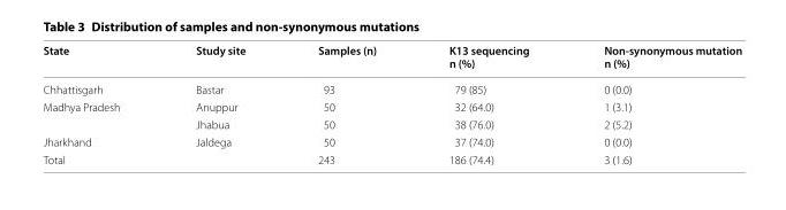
<table><thead><tr><td>State</td><td>Study site</td><td>Samples (n)</td><td>K13 sequencing n (%)</td><td>Non‑synonymous mutation n (%)</td></tr></thead><tbody><tr><td>Chhattisgarh</td><td>Bastar</td><td>93</td><td>79 (85)</td><td>0 (0.0)</td></tr><tr><td rowspan="2">Madhya Pradesh</td><td>Anuppur</td><td>50</td><td>32 (64.0)</td><td>1 (3.1)</td></tr><tr><td>Jhabua</td><td>50</td><td>38 (76.0)</td><td>2 (5.2)</td></tr><tr><td>Jharkhand</td><td>Jaldega</td><td>50</td><td>37 (74.0)</td><td>0 (0.0)</td></tr><tr><td>Total</td><td></td><td>243</td><td>186 (74.4)</td><td>3 (1.6)</td></tr></tbody></table>